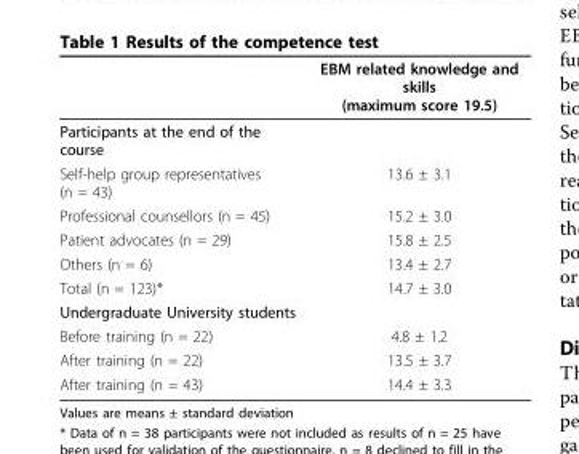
<table><thead><tr><td></td><td>EBM related knowledge and skills (maximum score 19.5)</td></tr></thead><tbody><tr><td colspan="2">Participants at the end of the course</td></tr><tr><td>Self-help group representatives (n = 43)</td><td>13.6 ± 3.1</td></tr><tr><td>Professional counsellors (n = 45)</td><td>15.2 ± 3.0</td></tr><tr><td>Patient advocates (n = 29)</td><td>15.8 ± 2.5</td></tr><tr><td>Others (n = 6)</td><td>13.4 ± 2.7</td></tr><tr><td>Total (n = 123)*</td><td>14.7 ± 3.0</td></tr><tr><td colspan="2">Undergraduate University students</td></tr><tr><td>Before training (n = 22)</td><td>4.8 ± 1.2</td></tr><tr><td>After training (n = 22)</td><td>13.5 ± 3.7</td></tr><tr><td>After training (n = 43)</td><td>14.4 ± 3.3</td></tr></tbody></table>